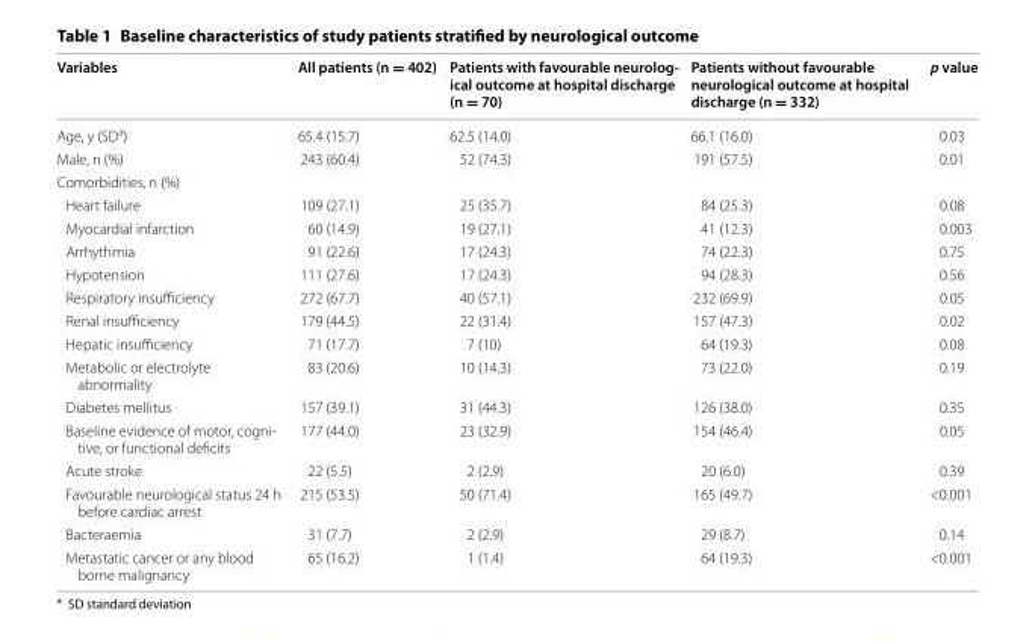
<table><thead><tr><td>Variables</td><td>All patients (n = 402)</td><td>Patients with favourable neurolog- ical outcome at hospital discharge (n = 70)</td><td>Patients without favourable neurological outcome at hospital discharge (n = 332)</td><td>p value</td></tr></thead><tbody><tr><td>Age, y (SD<sup>a</sup>)</td><td>65.4 (15.7)</td><td>62.5 (14.0)</td><td>66.1 (16.0)</td><td>0.03</td></tr><tr><td>Male, n (%)</td><td>243 (60.4)</td><td>52 (74.3)</td><td>191 (57.5)</td><td>0.01</td></tr><tr><td colspan="5">Comorbidities, n (%)</td></tr><tr><td>Heart failure</td><td>109 (27.1)</td><td>25 (35.7)</td><td>84 (25.3)</td><td>0.08</td></tr><tr><td>Myocardial infarction</td><td>60 (14.9)</td><td>19 (27.1)</td><td>41 (12.3)</td><td>0.003</td></tr><tr><td>Arrhythmia</td><td>91 (22.6)</td><td>17 (24.3)</td><td>74 (22.3)</td><td>0.75</td></tr><tr><td>Hypotension</td><td>111 (27.6)</td><td>17 (24.3)</td><td>94 (28.3)</td><td>0.56</td></tr><tr><td>Respiratory insufficiency</td><td>272 (67.7)</td><td>40 (57.1)</td><td>232 (69.9)</td><td>0.05</td></tr><tr><td>Renal insufficiency</td><td>179 (44.5)</td><td>22 (31.4)</td><td>157 (47.3)</td><td>0.02</td></tr><tr><td>Hepatic insufficiency</td><td>71 (17.7)</td><td>7 (10)</td><td>64 (19.3)</td><td>0.08</td></tr><tr><td>Metabolic or electrolyte abnormality</td><td>83 (20.6)</td><td>10 (14.3)</td><td>73 (22.0)</td><td>0.19</td></tr><tr><td>Diabetes mellitus</td><td>157 (39.1)</td><td>31 (44.3)</td><td>126 (38.0)</td><td>0.35</td></tr><tr><td>Baseline evidence of motor, cogni‑ tive, or functional deficits</td><td>177 (44.0)</td><td>23 (32.9)</td><td>154 (46.4)</td><td>0.05</td></tr><tr><td>Acute stroke</td><td>22 (5.5)</td><td>2 (2.9)</td><td>20 (6.0)</td><td>0.39</td></tr><tr><td>Favourable neurological status 24 h before cardiac arrest</td><td>215 (53.5)</td><td>50 (71.4)</td><td>165 (49.7)</td><td>&lt;0.001</td></tr><tr><td>Bacteraemia</td><td>31 (7.7)</td><td>2 (2.9)</td><td>29 (8.7)</td><td>0.14</td></tr><tr><td>Metastatic cancer or any blood borne malignancy</td><td>65 (16.2)</td><td>1 (1.4)</td><td>64 (19.3)</td><td>&lt;0.001</td></tr></tbody></table>